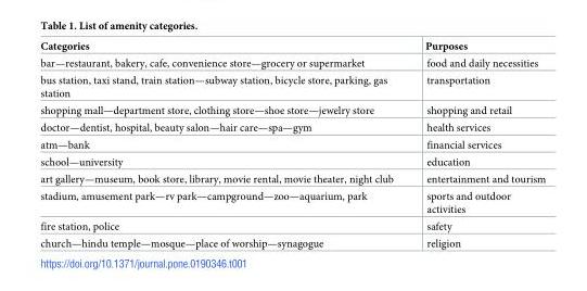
<table><thead><tr><td>Categories</td><td>Purposes</td></tr></thead><tbody><tr><td>bar—restaurant, bakery, cafe, convenience store—grocery or supermarket</td><td>food and daily necessities</td></tr><tr><td>bus station, taxi stand, train station—subway station, bicycle store, parking, gas station</td><td>transportation</td></tr><tr><td>shopping mall—department store, clothing store—shoe store—jewelry store</td><td>shopping and retail</td></tr><tr><td>doctor—dentist, hospital, beauty salon—hair care—spa—gym</td><td>health services</td></tr><tr><td>atm—bank</td><td>financial services</td></tr><tr><td>school—university</td><td>education</td></tr><tr><td>art gallery—museum, book store, library, movie rental, movie theater, night club</td><td>entertainment and tourism</td></tr><tr><td>stadium, amusement park—rv park—campground—zoo—aquarium, park</td><td>sports and outdoor activities</td></tr><tr><td>fire station, police</td><td>safety</td></tr><tr><td>church—hindu temple—mosque—place of worship—synagogue</td><td>religion</td></tr></tbody></table>